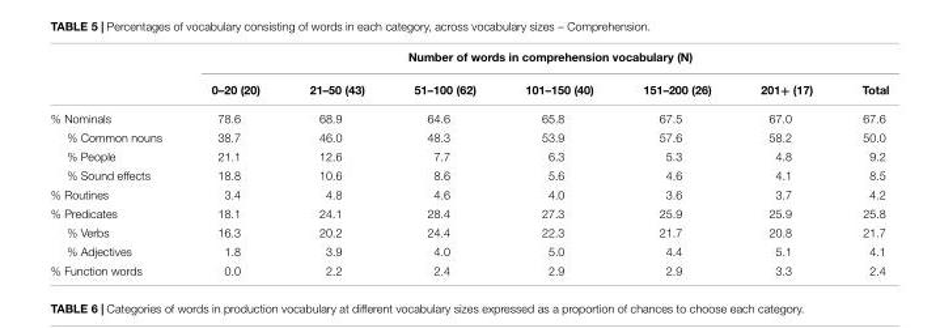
<table><thead><tr><td rowspan="2"></td><td colspan="7">Number of words in comprehension vocabulary (N)</td></tr><tr><td>0–20 (20)</td><td>21–50 (43)</td><td>51–100 (62)</td><td>101–150 (40)</td><td>151–200 (26)</td><td>201+ (17)</td><td>Total</td></tr></thead><tbody><tr><td>% Nominals</td><td>78.6</td><td>68.9</td><td>64.6</td><td>65.8</td><td>67.5</td><td>67.0</td><td>67.6</td></tr><tr><td>% Common nouns</td><td>38.7</td><td>46.0</td><td>48.3</td><td>53.9</td><td>57.6</td><td>58.2</td><td>50.0</td></tr><tr><td>% People</td><td>21.1</td><td>12.6</td><td>7.7</td><td>6.3</td><td>5.3</td><td>4.8</td><td>9.2</td></tr><tr><td>% Sound effects</td><td>18.8</td><td>10.6</td><td>8.6</td><td>5.6</td><td>4.6</td><td>4.1</td><td>8.5</td></tr><tr><td>% Routines</td><td>3.4</td><td>4.8</td><td>4.6</td><td>4.0</td><td>3.6</td><td>3.7</td><td>4.2</td></tr><tr><td>% Predicates</td><td>18.1</td><td>24.1</td><td>28.4</td><td>27.3</td><td>25.9</td><td>25.9</td><td>25.8</td></tr><tr><td>% Verbs</td><td>16.3</td><td>20.2</td><td>24.4</td><td>22.3</td><td>21.7</td><td>20.8</td><td>21.7</td></tr><tr><td>% Adjectives</td><td>1.8</td><td>3.9</td><td>4.0</td><td>5.0</td><td>4.4</td><td>5.1</td><td>4.1</td></tr><tr><td>% Function words</td><td>0.0</td><td>2.2</td><td>2.4</td><td>2.9</td><td>2.9</td><td>3.3</td><td>2.4</td></tr></tbody></table>